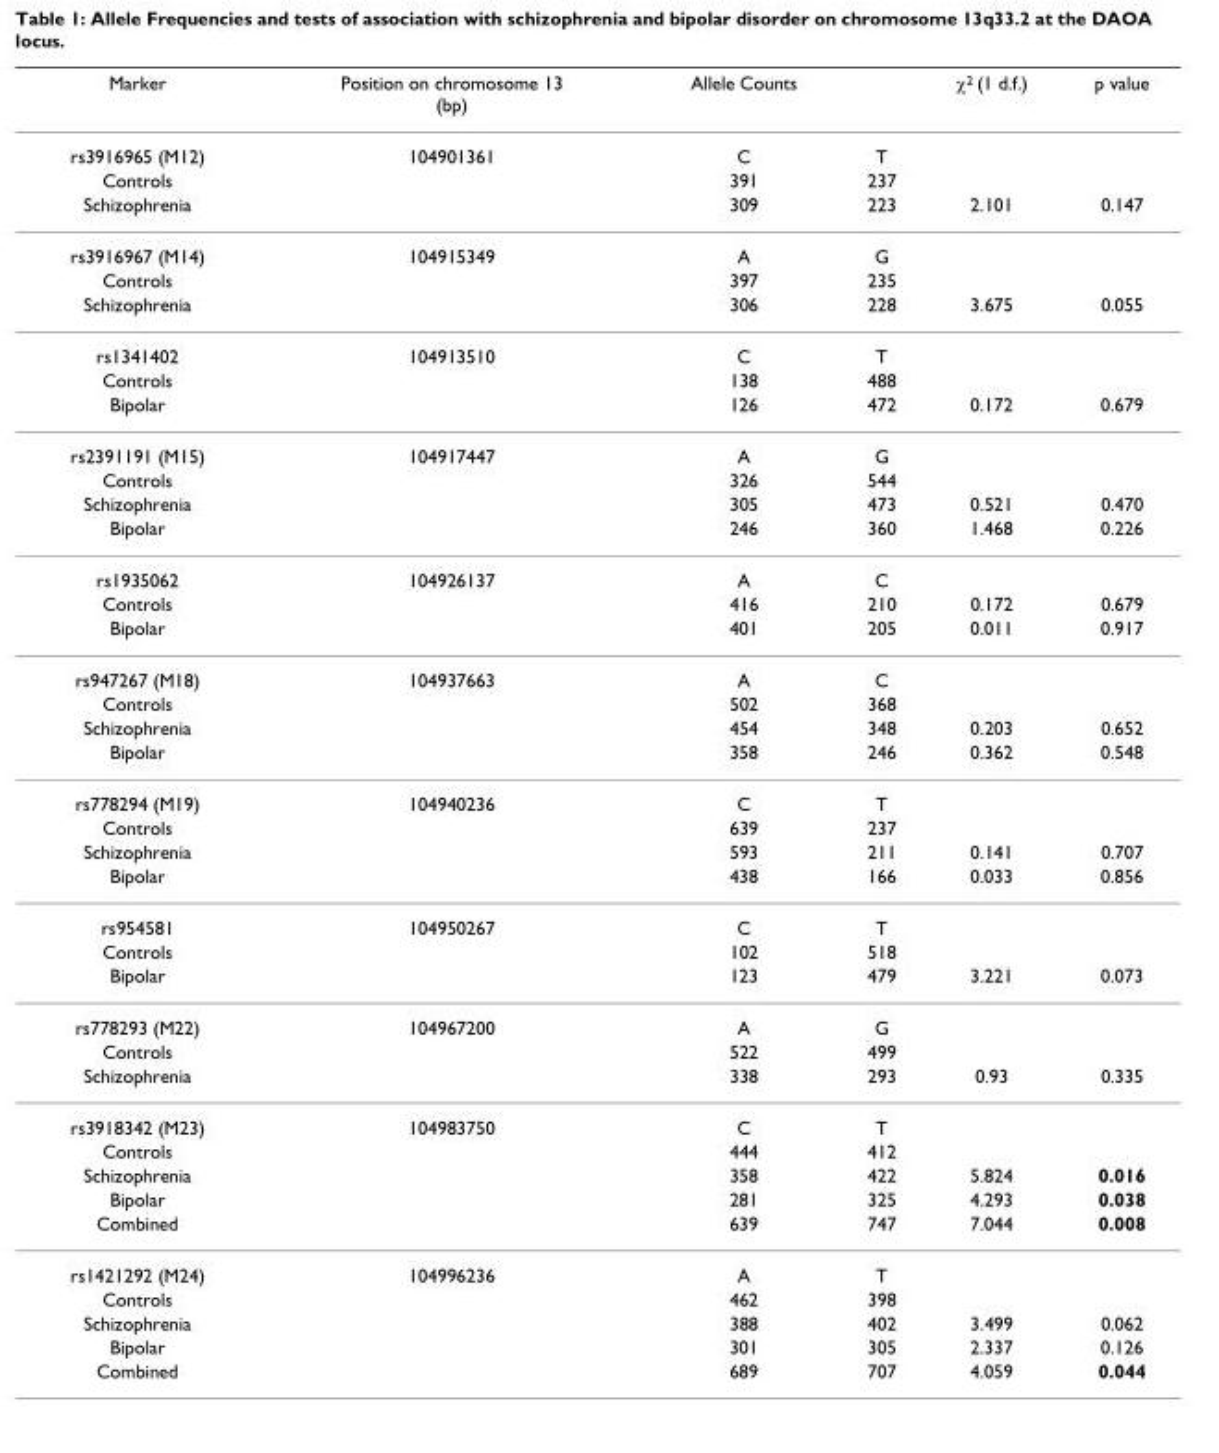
<table><thead><tr><td>Marker</td><td>Position on chromosome 13 (bp)</td><td>Allele Counts</td><td></td><td>χ<sup>2</sup> (1 d.f.)</td><td>p value</td></tr></thead><tbody><tr><td>rs3916965 (M12)</td><td>104901361</td><td>C</td><td>T</td><td></td><td></td></tr><tr><td>Controls</td><td></td><td>391</td><td>237</td><td></td><td></td></tr><tr><td>Schizophrenia</td><td></td><td>309</td><td>223</td><td>2.101</td><td>0.147</td></tr><tr><td>rs3916967 (M14)</td><td>104915349</td><td>A</td><td>G</td><td></td><td></td></tr><tr><td>Controls</td><td></td><td>397</td><td>235</td><td></td><td></td></tr><tr><td>Schizophrenia</td><td></td><td>306</td><td>228</td><td>3.675</td><td>0.055</td></tr><tr><td>rs1341402</td><td>104913510</td><td>C</td><td>T</td><td></td><td></td></tr><tr><td>Controls</td><td></td><td>138</td><td>488</td><td></td><td></td></tr><tr><td>Bipolar</td><td></td><td>126</td><td>472</td><td>0.172</td><td>0.679</td></tr><tr><td>rs2391191 (M15)</td><td>104917447</td><td>A</td><td>G</td><td></td><td></td></tr><tr><td>Controls</td><td></td><td>326</td><td>544</td><td></td><td></td></tr><tr><td>Schizophrenia</td><td></td><td>305</td><td>473</td><td>0.521</td><td>0.470</td></tr><tr><td>Bipolar</td><td></td><td>246</td><td>360</td><td>1.468</td><td>0.226</td></tr><tr><td>rs1935062</td><td>104926137</td><td>A</td><td>C</td><td></td><td></td></tr><tr><td>Controls</td><td></td><td>416</td><td>210</td><td>0.172</td><td>0.679</td></tr><tr><td>Bipolar</td><td></td><td>401</td><td>205</td><td>0.011</td><td>0.917</td></tr><tr><td>rs947267 (M18)</td><td>104937663</td><td>A</td><td>C</td><td></td><td></td></tr><tr><td>Controls</td><td></td><td>502</td><td>368</td><td></td><td></td></tr><tr><td>Schizophrenia</td><td></td><td>454</td><td>348</td><td>0.203</td><td>0.652</td></tr><tr><td>Bipolar</td><td></td><td>358</td><td>246</td><td>0.362</td><td>0.548</td></tr><tr><td>rs778294 (M19)</td><td>104940236</td><td>C</td><td>T</td><td></td><td></td></tr><tr><td>Controls</td><td></td><td>639</td><td>237</td><td></td><td></td></tr><tr><td>Schizophrenia</td><td></td><td>593</td><td>211</td><td>0.141</td><td>0.707</td></tr><tr><td>Bipolar</td><td></td><td>438</td><td>166</td><td>0.033</td><td>0.856</td></tr><tr><td>rs954581</td><td>104950267</td><td>C</td><td>T</td><td></td><td></td></tr><tr><td>Controls</td><td></td><td>102</td><td>518</td><td></td><td></td></tr><tr><td>Bipolar</td><td></td><td>123</td><td>479</td><td>3.221</td><td>0.073</td></tr><tr><td>rs778293 (M22)</td><td>104967200</td><td>A</td><td>G</td><td></td><td></td></tr><tr><td>Controls</td><td></td><td>522</td><td>499</td><td></td><td></td></tr><tr><td>Schizophrenia</td><td></td><td>338</td><td>293</td><td>0.93</td><td>0.335</td></tr><tr><td>rs3918342 (M23)</td><td>104983750</td><td>C</td><td>T</td><td></td><td></td></tr><tr><td>Controls</td><td></td><td>444</td><td>412</td><td></td><td></td></tr><tr><td>Schizophrenia</td><td></td><td>358</td><td>422</td><td>5.824</td><td>0.016</td></tr><tr><td>Bipolar</td><td></td><td>281</td><td>325</td><td>4.293</td><td>0.038</td></tr><tr><td>Combined</td><td></td><td>639</td><td>747</td><td>7.044</td><td>0.008</td></tr><tr><td>rs1421292 (M24)</td><td>104996236</td><td>A</td><td>T</td><td></td><td></td></tr><tr><td>Controls</td><td></td><td>462</td><td>398</td><td></td><td></td></tr><tr><td>Schizophrenia</td><td></td><td>388</td><td>402</td><td>3.499</td><td>0.062</td></tr><tr><td>Bipolar</td><td></td><td>301</td><td>305</td><td>2.337</td><td>0.126</td></tr><tr><td>Combined</td><td></td><td>689</td><td>707</td><td>4.059</td><td>0.044</td></tr></tbody></table>